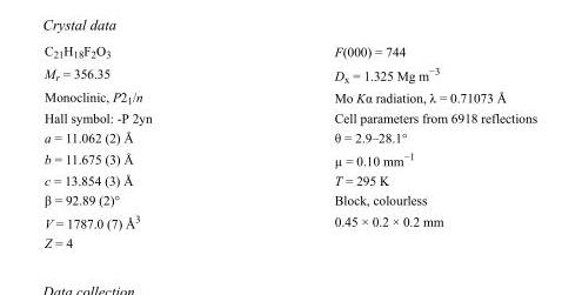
<table><tbody><tr><td>C<sub>21</sub>H<sub>18</sub>F<sub>2</sub>O<sub>3</sub></td><td>F(000) = 744</td></tr><tr><td>M<sub>r</sub> = 356.35</td><td>D<sub>x</sub> = 1.325 Mg m<sup>−3</sup></td></tr><tr><td>Monoclinic, P2<sub>1</sub>/n</td><td>Mo Kα radiation, λ = 0.71073 Å</td></tr><tr><td>Hall symbol: -P 2yn</td><td>Cell parameters from 6918 reflections</td></tr><tr><td>a = 11.062 (2) Å</td><td>θ = 2.9–28.1°</td></tr><tr><td>b = 11.675 (3) Å</td><td>µ = 0.10 mm<sup>−1</sup></td></tr><tr><td>c = 13.854 (3) Å</td><td>T = 295 K</td></tr><tr><td>β = 92.89 (2)°</td><td>Block, colourless</td></tr><tr><td>V = 1787.0 (7) Å<sup>3</sup></td><td>0.45 × 0.2 × 0.2 mm</td></tr><tr><td>Z = 4</td><td></td></tr></tbody></table>